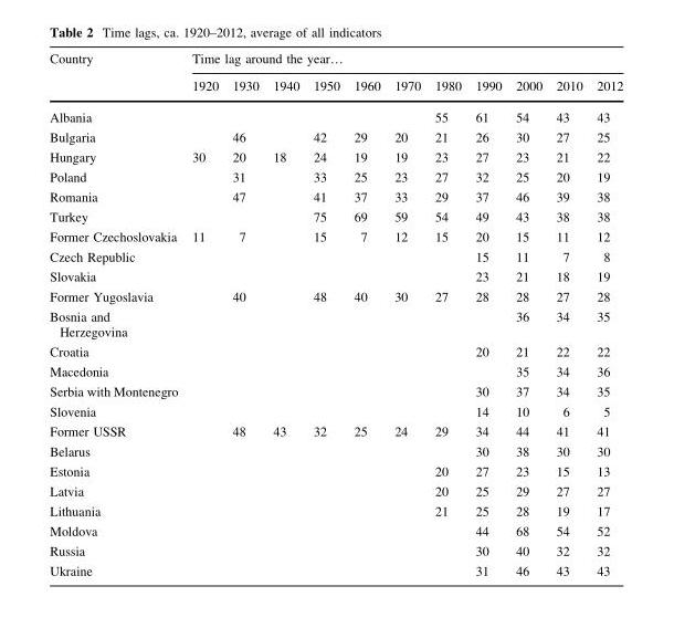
<table><thead><tr><td rowspan="2">Country</td><td colspan="11">Time lag around the year…</td></tr><tr><td>1920</td><td>1930</td><td>1940</td><td>1950</td><td>1960</td><td>1970</td><td>1980</td><td>1990</td><td>2000</td><td>2010</td><td>2012</td></tr></thead><tbody><tr><td>Albania</td><td></td><td></td><td></td><td></td><td></td><td></td><td>55</td><td>61</td><td>54</td><td>43</td><td>43</td></tr><tr><td>Bulgaria</td><td></td><td>46</td><td></td><td>42</td><td>29</td><td>20</td><td>21</td><td>26</td><td>30</td><td>27</td><td>25</td></tr><tr><td>Hungary</td><td>30</td><td>20</td><td>18</td><td>24</td><td>19</td><td>19</td><td>23</td><td>27</td><td>23</td><td>21</td><td>22</td></tr><tr><td>Poland</td><td></td><td>31</td><td></td><td>33</td><td>25</td><td>23</td><td>27</td><td>32</td><td>25</td><td>20</td><td>19</td></tr><tr><td>Romania</td><td></td><td>47</td><td></td><td>41</td><td>37</td><td>33</td><td>29</td><td>37</td><td>46</td><td>39</td><td>38</td></tr><tr><td>Turkey</td><td></td><td></td><td></td><td>75</td><td>69</td><td>59</td><td>54</td><td>49</td><td>43</td><td>38</td><td>38</td></tr><tr><td>Former Czechoslovakia</td><td>11</td><td>7</td><td></td><td>15</td><td>7</td><td>12</td><td>15</td><td>20</td><td>15</td><td>11</td><td>12</td></tr><tr><td>Czech Republic</td><td></td><td></td><td></td><td></td><td></td><td></td><td></td><td>15</td><td>11</td><td>7</td><td>8</td></tr><tr><td>Slovakia</td><td></td><td></td><td></td><td></td><td></td><td></td><td></td><td>23</td><td>21</td><td>18</td><td>19</td></tr><tr><td>Former Yugoslavia</td><td></td><td>40</td><td></td><td>48</td><td>40</td><td>30</td><td>27</td><td>28</td><td>28</td><td>27</td><td>28</td></tr><tr><td>Bosnia and Herzegovina</td><td></td><td></td><td></td><td></td><td></td><td></td><td></td><td></td><td>36</td><td>34</td><td>35</td></tr><tr><td>Croatia</td><td></td><td></td><td></td><td></td><td></td><td></td><td></td><td>20</td><td>21</td><td>22</td><td>22</td></tr><tr><td>Macedonia</td><td></td><td></td><td></td><td></td><td></td><td></td><td></td><td></td><td>35</td><td>34</td><td>36</td></tr><tr><td>Serbia with Montenegro</td><td></td><td></td><td></td><td></td><td></td><td></td><td></td><td>30</td><td>37</td><td>34</td><td>35</td></tr><tr><td>Slovenia</td><td></td><td></td><td></td><td></td><td></td><td></td><td></td><td>14</td><td>10</td><td>6</td><td>5</td></tr><tr><td>Former USSR</td><td></td><td>48</td><td>43</td><td>32</td><td>25</td><td>24</td><td>29</td><td>34</td><td>44</td><td>41</td><td>41</td></tr><tr><td>Belarus</td><td></td><td></td><td></td><td></td><td></td><td></td><td></td><td>30</td><td>38</td><td>30</td><td>30</td></tr><tr><td>Estonia</td><td></td><td></td><td></td><td></td><td></td><td></td><td>20</td><td>27</td><td>23</td><td>15</td><td>13</td></tr><tr><td>Latvia</td><td></td><td></td><td></td><td></td><td></td><td></td><td>20</td><td>25</td><td>29</td><td>27</td><td>27</td></tr><tr><td>Lithuania</td><td></td><td></td><td></td><td></td><td></td><td></td><td>21</td><td>25</td><td>28</td><td>19</td><td>17</td></tr><tr><td>Moldova</td><td></td><td></td><td></td><td></td><td></td><td></td><td></td><td>44</td><td>68</td><td>54</td><td>52</td></tr><tr><td>Russia</td><td></td><td></td><td></td><td></td><td></td><td></td><td></td><td>30</td><td>40</td><td>32</td><td>32</td></tr><tr><td>Ukraine</td><td></td><td></td><td></td><td></td><td></td><td></td><td></td><td>31</td><td>46</td><td>43</td><td>43</td></tr></tbody></table>